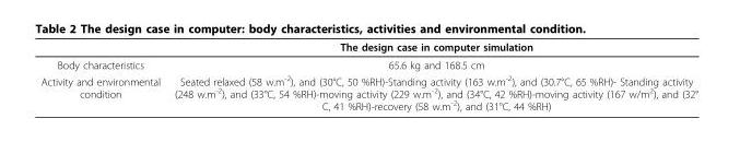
<table><thead><tr><td></td><td>The design case in computer simulation</td></tr></thead><tbody><tr><td>Body characteristics</td><td>65.6 kg and 168.5 cm</td></tr><tr><td>Activity and environmental condition</td><td>Seated relaxed (58 w.m<sup>-2</sup>), and (30°C, 50 %RH)-Standing activity (163 w.m<sup>-2</sup>), and (30.7°C, 65 %RH)- Standing activity (248 w.m<sup>-2</sup>), and (33°C, 54 %RH)-moving activity (229 w.m<sup>-2</sup>), and (34°C, 42 %RH)-moving activity (167 w/m<sup>2</sup>), and (32° C, 41 %RH)-recovery (58 w.m<sup>-2</sup>), and (31°C, 44 %RH)</td></tr></tbody></table>